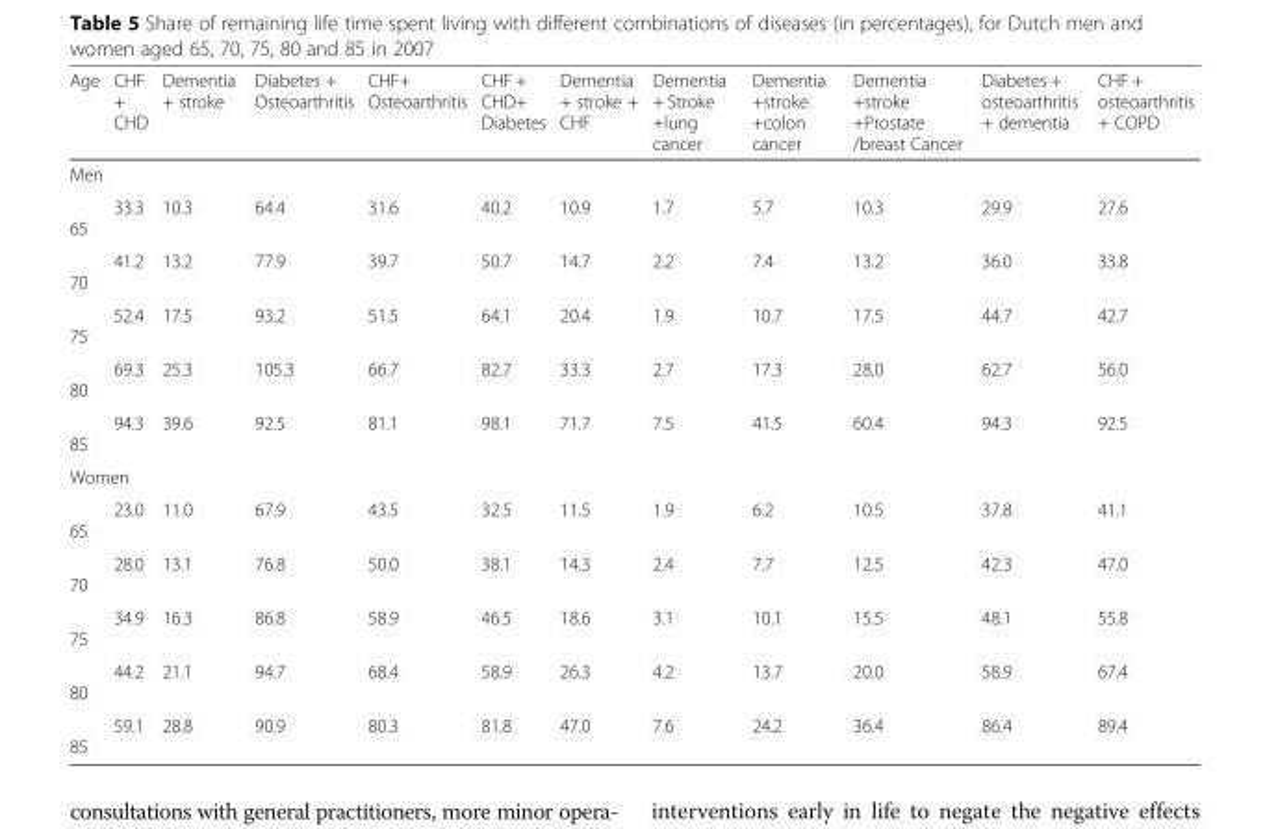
<table><thead><tr><td>Age</td><td>CHF + CHD</td><td>Dementia + stroke</td><td>Diabetes + Osteoarthritis</td><td>CHF+ Osteoarthritis</td><td>CHF + CHD+ Diabetes</td><td>Dementia + stroke + CHF</td><td>Dementia + Stroke +lung cancer</td><td>Dementia +stroke +colon cancer</td><td>Dementia +stroke +Prostate /breast Cancer</td><td>Diabetes + osteoarthritis + dementia</td><td>CHF + osteoarthritis + COPD</td></tr></thead><tbody><tr><td colspan="12">Men</td></tr><tr><td>65</td><td>33.3</td><td>10.3</td><td>64.4</td><td>31.6</td><td>40.2</td><td>10.9</td><td>1.7</td><td>5.7</td><td>10.3</td><td>29.9</td><td>27.6</td></tr><tr><td>70</td><td>41.2</td><td>13.2</td><td>77.9</td><td>39.7</td><td>50.7</td><td>14.7</td><td>2.2</td><td>7.4</td><td>13.2</td><td>36.0</td><td>33.8</td></tr><tr><td>75</td><td>52.4</td><td>17.5</td><td>93.2</td><td>51.5</td><td>64.1</td><td>20.4</td><td>1.9</td><td>10.7</td><td>17.5</td><td>44.7</td><td>42.7</td></tr><tr><td>80</td><td>69.3</td><td>25.3</td><td>105.3</td><td>66.7</td><td>82.7</td><td>33.3</td><td>2.7</td><td>17.3</td><td>28.0</td><td>62.7</td><td>56.0</td></tr><tr><td>85</td><td>94.3</td><td>39.6</td><td>92.5</td><td>81.1</td><td>98.1</td><td>71.7</td><td>7.5</td><td>41.5</td><td>60.4</td><td>94.3</td><td>92.5</td></tr><tr><td colspan="12">Women</td></tr><tr><td>65</td><td>23.0</td><td>11.0</td><td>67.9</td><td>43.5</td><td>32.5</td><td>11.5</td><td>1.9</td><td>6.2</td><td>10.5</td><td>37.8</td><td>41.1</td></tr><tr><td>70</td><td>28.0</td><td>13.1</td><td>76.8</td><td>50.0</td><td>38.1</td><td>14.3</td><td>2.4</td><td>7.7</td><td>12.5</td><td>42.3</td><td>47.0</td></tr><tr><td>75</td><td>34.9</td><td>16.3</td><td>86.8</td><td>58.9</td><td>46.5</td><td>18.6</td><td>3.1</td><td>10.1</td><td>15.5</td><td>48.1</td><td>55.8</td></tr><tr><td>80</td><td>44.2</td><td>21.1</td><td>94.7</td><td>68.4</td><td>58.9</td><td>26.3</td><td>4.2</td><td>13.7</td><td>20.0</td><td>58.9</td><td>67.4</td></tr><tr><td>85</td><td>59.1</td><td>28.8</td><td>90.9</td><td>80.3</td><td>81.8</td><td>47.0</td><td>7.6</td><td>24.2</td><td>36.4</td><td>86.4</td><td>89.4</td></tr></tbody></table>